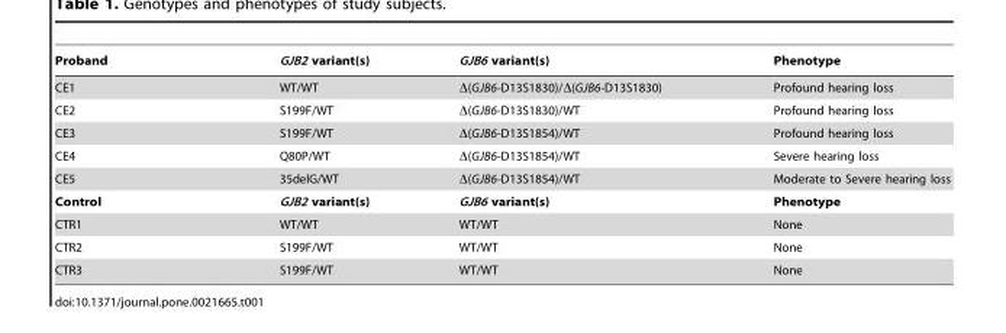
<table><thead><tr><td>Proband</td><td>GJB2 variant(s)</td><td>GJB6 variant(s)</td><td>Phenotype</td></tr></thead><tbody><tr><td>CE1</td><td>WT/WT</td><td>Δ(GJB6-D13S1830)/Δ(GJB6-D13S1830)</td><td>Profound hearing loss</td></tr><tr><td>CE2</td><td>S199F/WT</td><td>Δ(GJB6-D13S1830)/WT</td><td>Profound hearing loss</td></tr><tr><td>CE3</td><td>S199F/WT</td><td>Δ(GJB6-D13S1854)/WT</td><td>Profound hearing loss</td></tr><tr><td>CE4</td><td>Q80P/WT</td><td>Δ(GJB6-D13S1854)/WT</td><td>Severe hearing loss</td></tr><tr><td>CE5</td><td>35delG/WT</td><td>Δ(GJB6-D13S1854)/WT</td><td>Moderate to Severe hearing loss</td></tr><tr><td>Control</td><td>GJB2 variant(s)</td><td>GJB6 variant(s)</td><td>Phenotype</td></tr><tr><td>CTR1</td><td>WT/WT</td><td>WT/WT</td><td>None</td></tr><tr><td>CTR2</td><td>S199F/WT</td><td>WT/WT</td><td>None</td></tr><tr><td>CTR3</td><td>S199F/WT</td><td>WT/WT</td><td>None</td></tr></tbody></table>